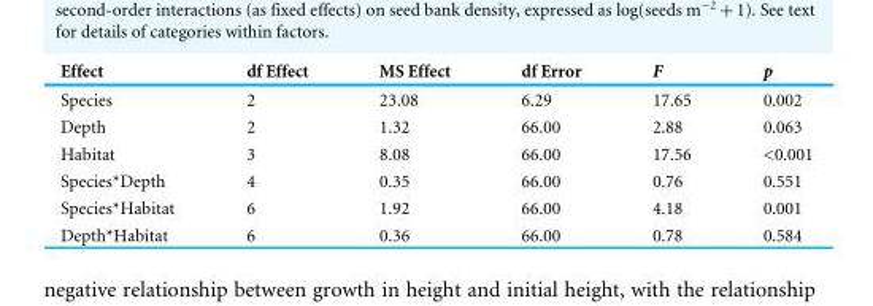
<table><thead><tr><td>Effect</td><td>df Effect</td><td>MS Effect</td><td>df Error</td><td>F</td><td>p</td></tr></thead><tbody><tr><td>Species</td><td>2</td><td>23.08</td><td>6.29</td><td>17.65</td><td>0.002</td></tr><tr><td>Depth</td><td>2</td><td>1.32</td><td>66.00</td><td>2.88</td><td>0.063</td></tr><tr><td>Habitat</td><td>3</td><td>8.08</td><td>66.00</td><td>17.56</td><td>&lt;0.001</td></tr><tr><td>Species*Depth</td><td>4</td><td>0.35</td><td>66.00</td><td>0.76</td><td>0.551</td></tr><tr><td>Species*Habitat</td><td>6</td><td>1.92</td><td>66.00</td><td>4.18</td><td>0.001</td></tr><tr><td>Depth*Habitat</td><td>6</td><td>0.36</td><td>66.00</td><td>0.78</td><td>0.584</td></tr></tbody></table>